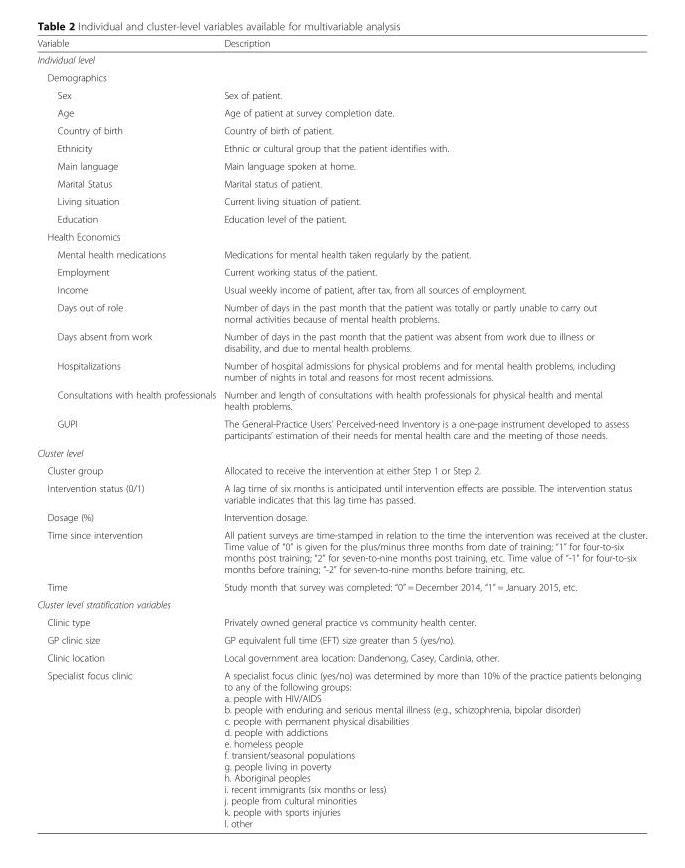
<table><thead><tr><td>Variable</td><td>Description</td></tr></thead><tbody><tr><td colspan="2">Individual level</td></tr><tr><td colspan="2">Demographics</td></tr><tr><td>Sex</td><td>Sex of patient.</td></tr><tr><td>Age</td><td>Age of patient at survey completion date.</td></tr><tr><td>Country of birth</td><td>Country of birth of patient.</td></tr><tr><td>Ethnicity</td><td>Ethnic or cultural group that the patient identifies with.</td></tr><tr><td>Main language</td><td>Main language spoken at home.</td></tr><tr><td>Marital Status</td><td>Marital status of patient.</td></tr><tr><td>Living situation</td><td>Current living situation of patient.</td></tr><tr><td>Education</td><td>Education level of the patient.</td></tr><tr><td colspan="2">Health Economics</td></tr><tr><td>Mental health medications</td><td>Medications for mental health taken regularly by the patient.</td></tr><tr><td>Employment</td><td>Current working status of the patient.</td></tr><tr><td>Income</td><td>Usual weekly income of patient, after tax, from all sources of employment.</td></tr><tr><td>Days out of role</td><td>Number of days in the past month that the patient was totally or partly unable to carry out normal activities because of mental health problems.</td></tr><tr><td>Days absent from work</td><td>Number of days in the past month that the patient was absent from work due to illness or disability, and due to mental health problems.</td></tr><tr><td>Hospitalizations</td><td>Number of hospital admissions for physical problems and for mental health problems, including number of nights in total and reasons for most recent admissions.</td></tr><tr><td>Consultations with health professionals</td><td>Number and length of consultations with health professionals for physical health and mental health problems.</td></tr><tr><td>GUPI</td><td>The General-Practice Users’ Perceived-need Inventory is a one-page instrument developed to assess participants’ estimation of their needs for mental health care and the meeting of those needs.</td></tr><tr><td colspan="2">Cluster level</td></tr><tr><td>Cluster group</td><td>Allocated to receive the intervention at either Step 1 or Step 2.</td></tr><tr><td>Intervention status (0/1)</td><td>A lag time of six months is anticipated until intervention effects are possible. The intervention status variable indicates that this lag time has passed.</td></tr><tr><td>Dosage (%)</td><td>Intervention dosage.</td></tr><tr><td>Time since intervention</td><td>All patient surveys are time-stamped in relation to the time the intervention was received at the cluster. Time value of “0” is given for the plus/minus three months from date of training; “1” for four-to-six months post training; “2” for seven-to-nine months post training, etc. Time value of “-1” for four-to-six months before training; “-2” for seven-to-nine months before training, etc.</td></tr><tr><td>Time</td><td>Study month that survey was completed: “0” = December 2014, “1” = January 2015, etc.</td></tr><tr><td colspan="2">Cluster level stratification variables</td></tr><tr><td>Clinic type</td><td>Privately owned general practice vs community health center.</td></tr><tr><td>GP clinic size</td><td>GP equivalent full time (EFT) size greater than 5 (yes/no).</td></tr><tr><td>Clinic location</td><td>Local government area location: Dandenong, Casey, Cardinia, other.</td></tr><tr><td>Specialist focus clinic</td><td>A specialist focus clinic (yes/no) was determined by more than 10% of the practice patients belonging to any of the following groups: a. people with HIV/AIDS b. people with enduring and serious mental illness (e.g., schizophrenia, bipolar disorder) c. people with permanent physical disabilities d. people with addictions e. homeless people f. transient/seasonal populations g. people living in poverty h. Aboriginal peoples i. recent immigrants (six months or less) j. people from cultural minorities k. people with sports injuries l. other</td></tr></tbody></table>